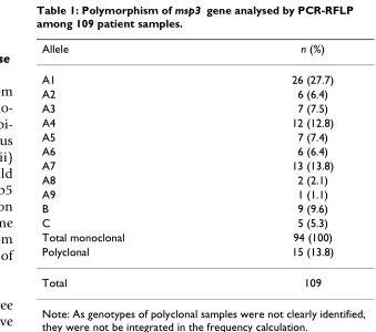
<table><thead><tr><td>Allele</td><td>n (%)</td></tr></thead><tbody><tr><td>A1</td><td>26 (27.7)</td></tr><tr><td>A2</td><td>6 (6.4)</td></tr><tr><td>A3</td><td>7 (7.5)</td></tr><tr><td>A4</td><td>12 (12.8)</td></tr><tr><td>A5</td><td>7 (7.4)</td></tr><tr><td>A6</td><td>6 (6.4)</td></tr><tr><td>A7</td><td>13 (13.8)</td></tr><tr><td>A8</td><td>2 (2.1)</td></tr><tr><td>A9</td><td>1 (1.1)</td></tr><tr><td>B</td><td>9 (9.6)</td></tr><tr><td>C</td><td>5 (5.3)</td></tr><tr><td>Total monoclonal</td><td>94 (100)</td></tr><tr><td>Polyclonal</td><td>15 (13.8)</td></tr><tr><td>Total</td><td>109</td></tr></tbody></table>